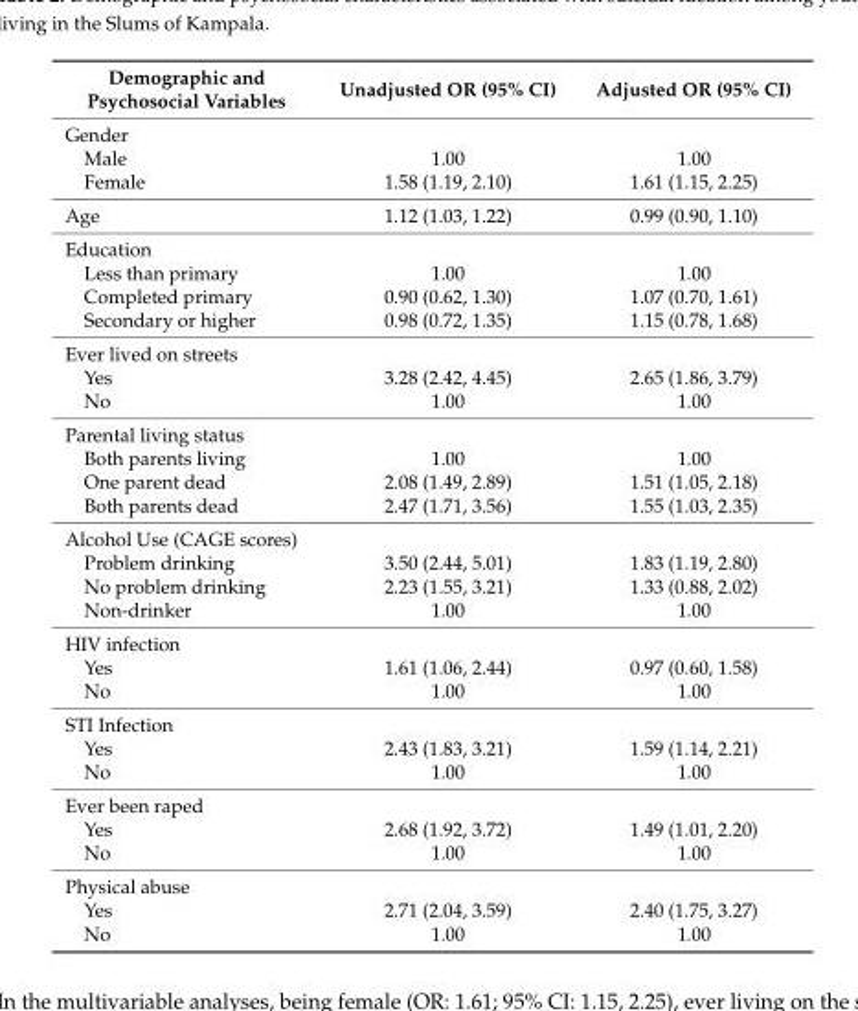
<table><thead><tr><td>Demographic and Psychosocial Variables</td><td>Unadjusted OR (95% CI)</td><td>Adjusted OR (95% CI)</td></tr></thead><tbody><tr><td colspan="3">Gender</td></tr><tr><td>Male</td><td>1.00</td><td>1.00</td></tr><tr><td>Female</td><td>1.58 (1.19, 2.10)</td><td>1.61 (1.15, 2.25)</td></tr><tr><td>Age</td><td>1.12 (1.03, 1.22)</td><td>0.99 (0.90, 1.10)</td></tr><tr><td colspan="3">Education</td></tr><tr><td>Less than primary</td><td>1.00</td><td>1.00</td></tr><tr><td>Completed primary</td><td>0.90 (0.62, 1.30)</td><td>1.07 (0.70, 1.61)</td></tr><tr><td>Secondary or higher</td><td>0.98 (0.72, 1.35)</td><td>1.15 (0.78, 1.68)</td></tr><tr><td colspan="3">Ever lived on streets</td></tr><tr><td>Yes</td><td>3.28 (2.42, 4.45)</td><td>2.65 (1.86, 3.79)</td></tr><tr><td>No</td><td>1.00</td><td>1.00</td></tr><tr><td colspan="3">Parental living status</td></tr><tr><td>Both parents living</td><td>1.00</td><td>1.00</td></tr><tr><td>One parent dead</td><td>2.08 (1.49, 2.89)</td><td>1.51 (1.05, 2.18)</td></tr><tr><td>Both parents dead</td><td>2.47 (1.71, 3.56)</td><td>1.55 (1.03, 2.35)</td></tr><tr><td colspan="3">Alcohol Use (CAGE scores)</td></tr><tr><td>Problem drinking</td><td>3.50 (2.44, 5.01)</td><td>1.83 (1.19, 2.80)</td></tr><tr><td>No problem drinking</td><td>2.23 (1.55, 3.21)</td><td>1.33 (0.88, 2.02)</td></tr><tr><td>Non-drinker</td><td>1.00</td><td>1.00</td></tr><tr><td colspan="3">HIV infection</td></tr><tr><td>Yes</td><td>1.61 (1.06, 2.44)</td><td>0.97 (0.60, 1.58)</td></tr><tr><td>No</td><td>1.00</td><td>1.00</td></tr><tr><td colspan="3">STI Infection</td></tr><tr><td>Yes</td><td>2.43 (1.83, 3.21)</td><td>1.59 (1.14, 2.21)</td></tr><tr><td>No</td><td>1.00</td><td>1.00</td></tr><tr><td colspan="3">Ever been raped</td></tr><tr><td>Yes</td><td>2.68 (1.92, 3.72)</td><td>1.49 (1.01, 2.20)</td></tr><tr><td>No</td><td>1.00</td><td>1.00</td></tr><tr><td colspan="3">Physical abuse</td></tr><tr><td>Yes</td><td>2.71 (2.04, 3.59)</td><td>2.40 (1.75, 3.27)</td></tr><tr><td>No</td><td>1.00</td><td>1.00</td></tr></tbody></table>